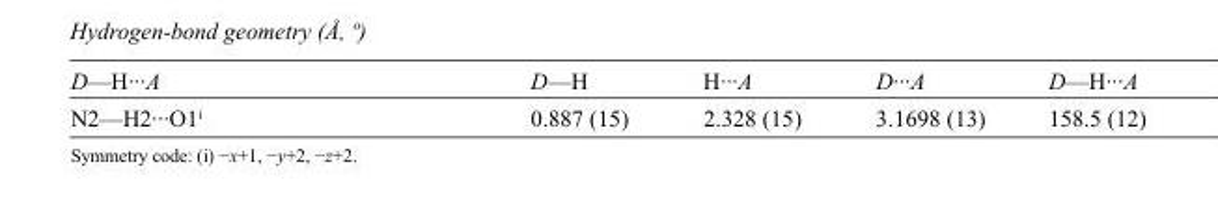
<table><tbody><tr><td>D—H···A</td><td>D—H</td><td>H···A</td><td>D···A</td><td>D—H···A</td></tr><tr><td>N2—H2···O1<sup>i</sup></td><td>0.887 (15)</td><td>2.328 (15)</td><td>3.1698 (13)</td><td>158.5 (12)</td></tr></tbody></table>